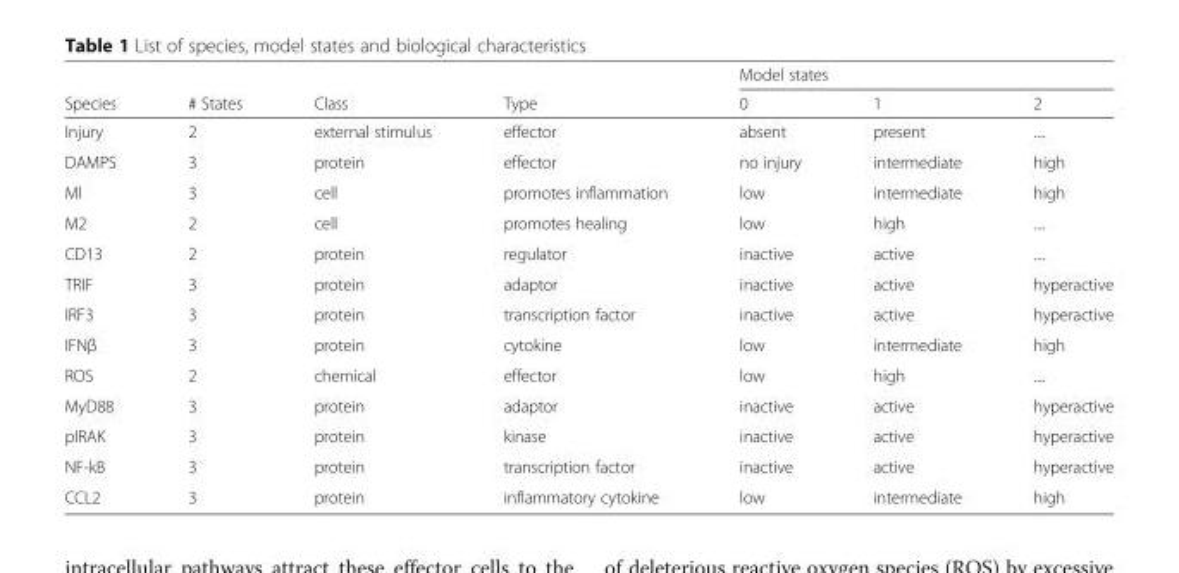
<table><thead><tr><td rowspan="2">Species</td><td rowspan="2"># States</td><td rowspan="2">Class</td><td rowspan="2">Type</td><td colspan="3">Model states</td></tr><tr><td>0</td><td>1</td><td>2</td></tr></thead><tbody><tr><td>Injury</td><td>2</td><td>external stimulus</td><td>effector</td><td>absent</td><td>present</td><td>....</td></tr><tr><td>DAMPS</td><td>3</td><td>protein</td><td>effector</td><td>no injury</td><td>intermediate</td><td>high</td></tr><tr><td>Ml</td><td>3</td><td>cell</td><td>promotes inflammation</td><td>low</td><td>intermediate</td><td>high</td></tr><tr><td>M2</td><td>2</td><td>cell</td><td>promotes healing</td><td>low</td><td>high</td><td>....</td></tr><tr><td>CD13</td><td>2</td><td>protein</td><td>regulator</td><td>inactive</td><td>active</td><td>....</td></tr><tr><td>TRIF</td><td>3</td><td>protein</td><td>adaptor</td><td>inactive</td><td>active</td><td>hyperactive</td></tr><tr><td>IRF3</td><td>3</td><td>protein</td><td>transcription factor</td><td>inactive</td><td>active</td><td>hyperactive</td></tr><tr><td>IFNβ</td><td>3</td><td>protein</td><td>cytokine</td><td>low</td><td>intermediate</td><td>high</td></tr><tr><td>ROS</td><td>2</td><td>chemical</td><td>effector</td><td>low</td><td>high</td><td>....</td></tr><tr><td>MyD88</td><td>3</td><td>protein</td><td>adaptor</td><td>inactive</td><td>active</td><td>hyperactive</td></tr><tr><td>pIRAK</td><td>3</td><td>protein</td><td>kinase</td><td>inactive</td><td>active</td><td>hyperactive</td></tr><tr><td>NF-kB</td><td>3</td><td>protein</td><td>transcription factor</td><td>inactive</td><td>active</td><td>hyperactive</td></tr><tr><td>CCL2</td><td>3</td><td>protein</td><td>inflammatory cytokine</td><td>low</td><td>intermediate</td><td>high</td></tr></tbody></table>